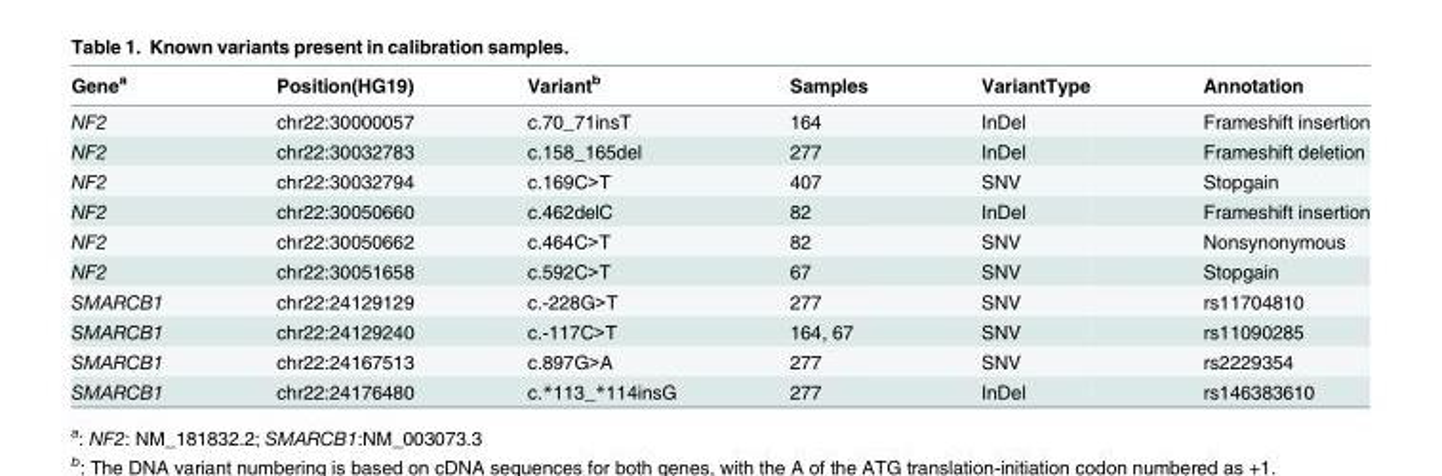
<table><thead><tr><td>Gene<sup>a</sup></td><td>Position(HG19)</td><td>Variant<sup>b</sup></td><td>Samples</td><td>VariantType</td><td>Annotation</td></tr></thead><tbody><tr><td>NF2</td><td>chr22:30000057</td><td>c.70_71insT</td><td>164</td><td>InDel</td><td>Frameshift insertion</td></tr><tr><td>NF2</td><td>chr22:30032783</td><td>c.158_165del</td><td>277</td><td>InDel</td><td>Frameshift deletion</td></tr><tr><td>NF2</td><td>chr22:30032794</td><td>c.169C&gt;T</td><td>407</td><td>SNV</td><td>Stopgain</td></tr><tr><td>NF2</td><td>chr22:30050660</td><td>c.462delC</td><td>82</td><td>InDel</td><td>Frameshift insertion</td></tr><tr><td>NF2</td><td>chr22:30050662</td><td>c.464C&gt;T</td><td>82</td><td>SNV</td><td>Nonsynonymous</td></tr><tr><td>NF2</td><td>chr22:30051658</td><td>c.592C&gt;T</td><td>67</td><td>SNV</td><td>Stopgain</td></tr><tr><td>SMARCB1</td><td>chr22:24129129</td><td>c.-228G&gt;T</td><td>277</td><td>SNV</td><td>rs11704810</td></tr><tr><td>SMARCB1</td><td>chr22:24129240</td><td>c.-117C&gt;T</td><td>164, 67</td><td>SNV</td><td>rs11090285</td></tr><tr><td>SMARCB1</td><td>chr22:24167513</td><td>c.897G&gt;A</td><td>277</td><td>SNV</td><td>rs2229354</td></tr><tr><td>SMARCB1</td><td>chr22:24176480</td><td>c.*113_*114insG</td><td>277</td><td>InDel</td><td>rs146383610</td></tr></tbody></table>